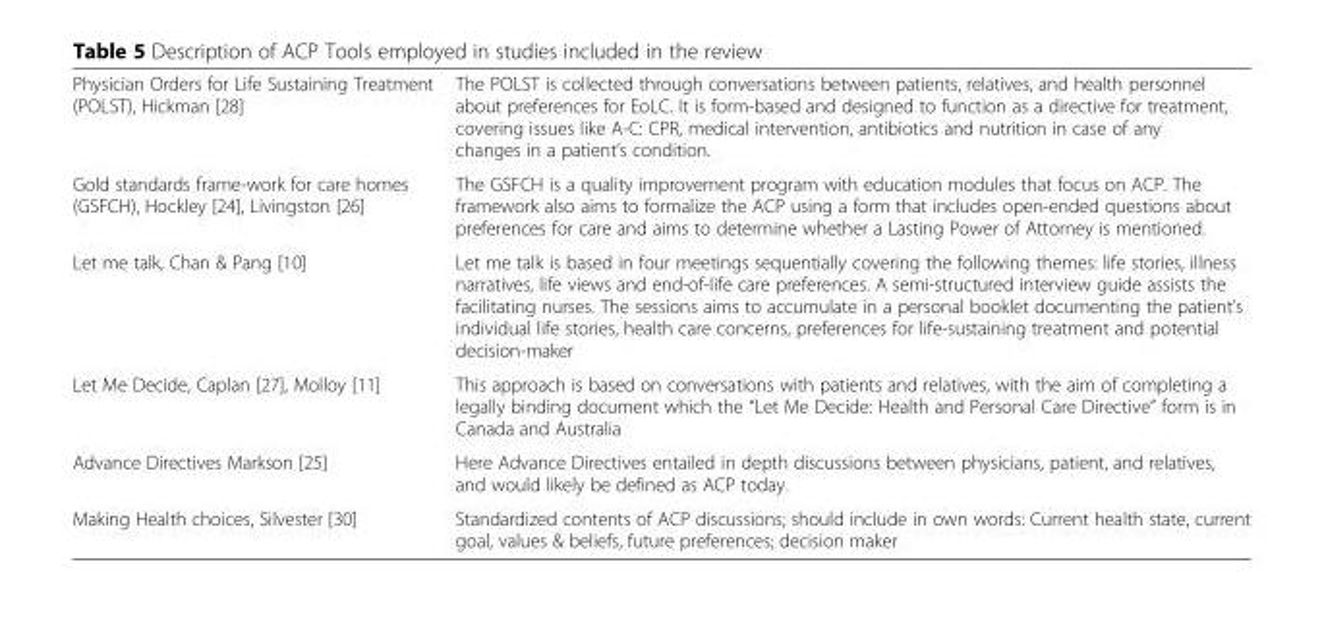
<table><tbody><tr><td>Physician Orders for Life Sustaining Treatment (POLST), Hickman [28]</td><td>The POLST is collected through conversations between patients, relatives, and health personnel about preferences for EoLC. It is form-based and designed to function as a directive for treatment, covering issues like A-C: CPR, medical intervention, antibiotics and nutrition in case of any changes in a patient’s condition.</td></tr><tr><td>Gold standards frame-work for care homes (GSFCH), Hockley [24], Livingston [26]</td><td>The GSFCH is a quality improvement program with education modules that focus on ACP. The framework also aims to formalize the ACP using a form that includes open-ended questions about preferences for care and aims to determine whether a Lasting Power of Attorney is mentioned.</td></tr><tr><td>Let me talk, Chan &amp; Pang [10]</td><td>Let me talk is based in four meetings sequentially covering the following themes: life stories, illness narratives, life views and end-of-life care preferences. A semi-structured interview guide assists the facilitating nurses. The sessions aims to accumulate in a personal booklet documenting the patient’s individual life stories, health care concerns, preferences for life-sustaining treatment and potential decision-maker</td></tr><tr><td>Let Me Decide, Caplan [27], Molloy [11]</td><td>This approach is based on conversations with patients and relatives, with the aim of completing a legally binding document which the “Let Me Decide: Health and Personal Care Directive” form is in Canada and Australia</td></tr><tr><td>Advance Directives Markson [25]</td><td>Here Advance Directives entailed in depth discussions between physicians, patient, and relatives, and would likely be defined as ACP today.</td></tr><tr><td>Making Health choices, Silvester [30]</td><td>Standardized contents of ACP discussions; should include in own words: Current health state, current goal, values &amp; beliefs, future preferences; decision maker</td></tr></tbody></table>